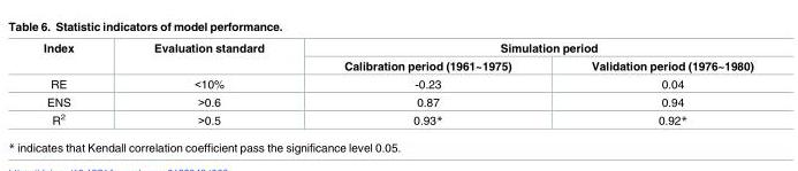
<table><thead><tr><td rowspan="2">Index</td><td rowspan="2">Evaluation standard</td><td colspan="2">Simulation period</td></tr><tr><td>Calibration period (1961~1975)</td><td>Validation period (1976~1980)</td></tr></thead><tbody><tr><td>RE</td><td>&lt;10%</td><td>-0.23</td><td>0.04</td></tr><tr><td>ENS</td><td>&gt;0.6</td><td>0.87</td><td>0.94</td></tr><tr><td>R<sup>2</sup></td><td>&gt;0.5</td><td>0.93*</td><td>0.92*</td></tr></tbody></table>